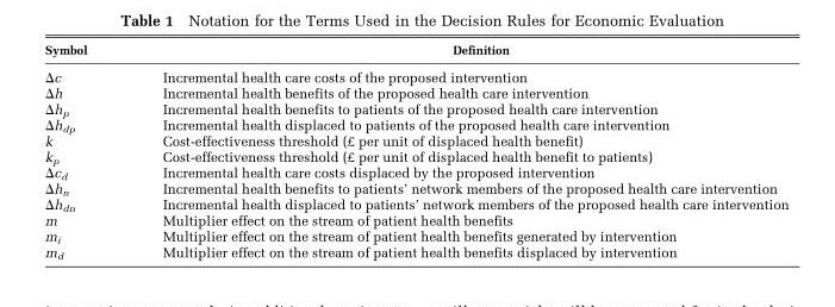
<table><thead><tr><td>Symbol</td><td>Definition</td></tr></thead><tbody><tr><td>Δc</td><td>Incremental health care costs of the proposed intervention</td></tr><tr><td>Δh</td><td>Incremental health benefits of the proposed health care intervention</td></tr><tr><td>Δh<sub>p</sub></td><td>Incremental health benefits to patients of the proposed health care intervention</td></tr><tr><td>Δh<sub>dp</sub></td><td>Incremental health displaced to patients of the proposed health care intervention</td></tr><tr><td>k</td><td>Cost-effectiveness threshold (£ per unit of displaced health benefit)</td></tr><tr><td>k<sub>p</sub></td><td>Cost-effectiveness threshold (£ per unit of displaced health benefit to patients)</td></tr><tr><td>Δc<sub>d</sub></td><td>Incremental health care costs displaced by the proposed intervention</td></tr><tr><td>Δh<sub>n</sub></td><td>Incremental health benefits to patients’ network members of the proposed health care intervention</td></tr><tr><td>Δh<sub>dn</sub></td><td>Incremental health displaced to patients’ network members of the proposed health care intervention</td></tr><tr><td>m</td><td>Multiplier effect on the stream of patient health benefits</td></tr><tr><td>m<sub>i</sub></td><td>Multiplier effect on the stream of patient health benefits generated by intervention</td></tr><tr><td>m<sub>d</sub></td><td>Multiplier effect on the stream of patient health benefits displaced by intervention</td></tr></tbody></table>